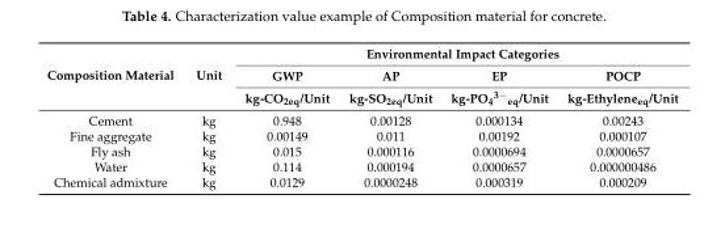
<table><thead><tr><td rowspan="3">Composition Material</td><td rowspan="3">Unit</td><td colspan="4">Environmental Impact Categories</td></tr><tr><td rowspan="2">GWP kg-CO<sub>2eq</sub>/Unit</td><td rowspan="2">AP kg-SO<sub>2eq</sub>/Unit</td><td rowspan="2">EP kg-PO<sub>4</sub><sup>3−</sup><sub>eq</sub>/Unit</td><td rowspan="2">POCP kg-Ethylene<sub>eq</sub>/Unit</td></tr><tr></tr></thead><tbody><tr><td>Cement</td><td>kg</td><td>0.948</td><td>0.00128</td><td>0.000134</td><td>0.00243</td></tr><tr><td>Fine aggregate</td><td>kg</td><td>0.00149</td><td>0.011</td><td>0.00192</td><td>0.000107</td></tr><tr><td>Fly ash</td><td>kg</td><td>0.015</td><td>0.000116</td><td>0.0000694</td><td>0.0000657</td></tr><tr><td>Water</td><td>kg</td><td>0.114</td><td>0.000194</td><td>0.0000657</td><td>0.000000486</td></tr><tr><td>Chemical admixture</td><td>kg</td><td>0.0129</td><td>0.0000248</td><td>0.000319</td><td>0.000209</td></tr></tbody></table>